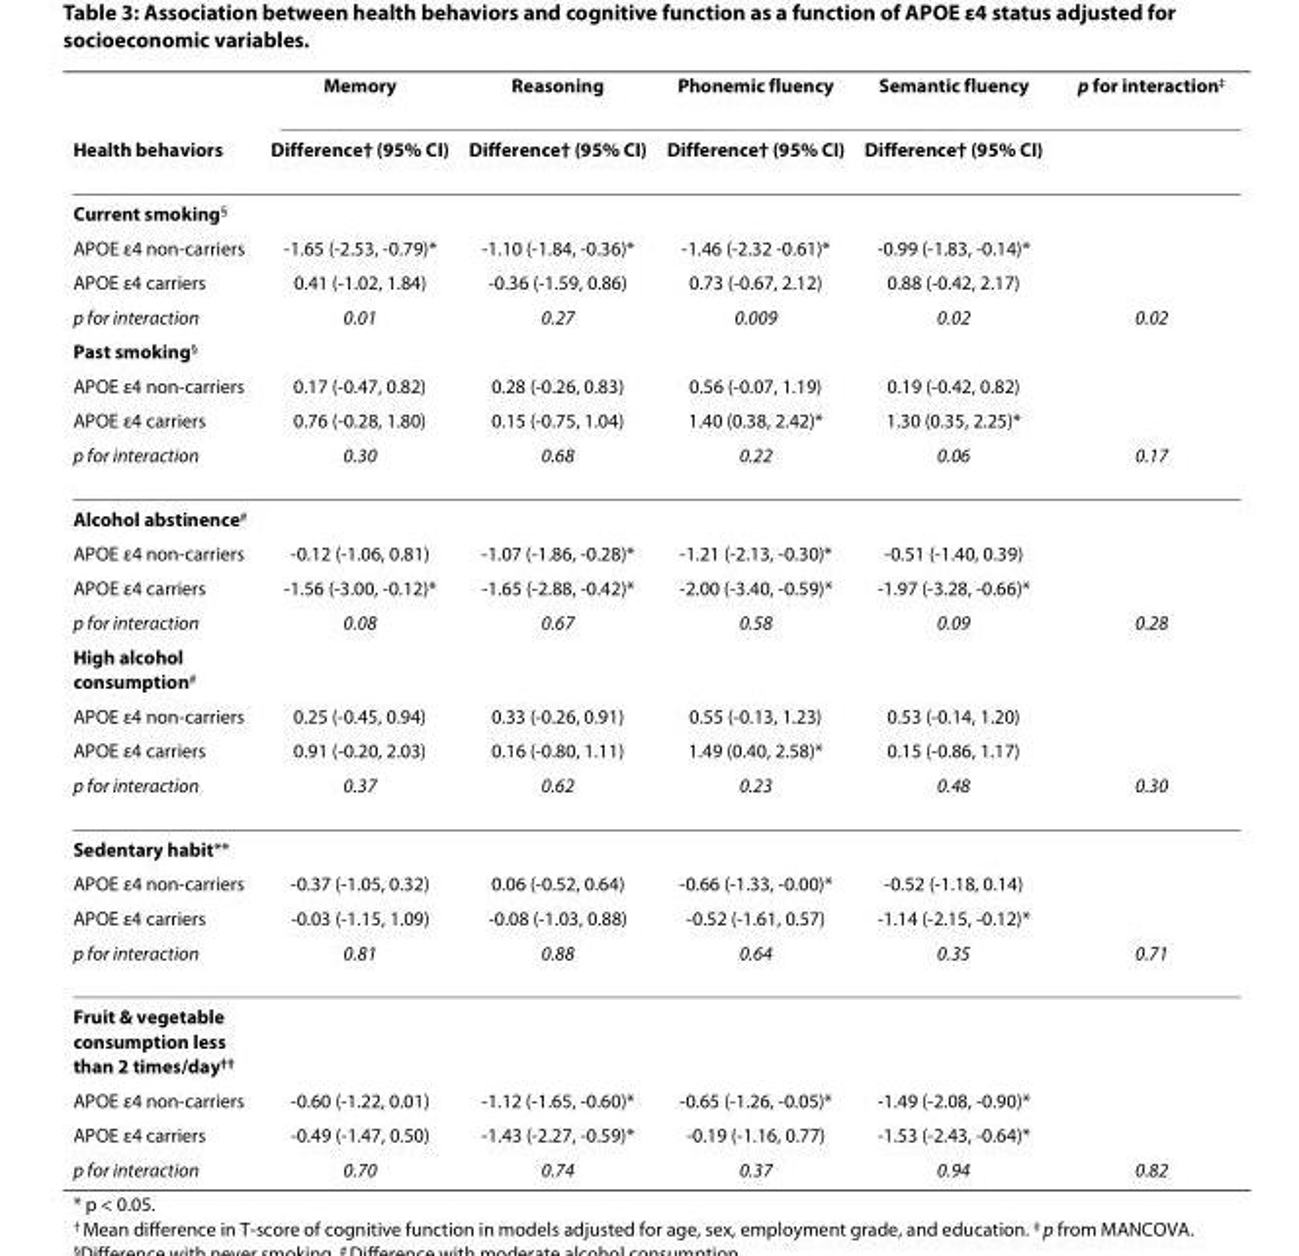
<table><thead><tr><td rowspan="2">Health behaviors</td><td rowspan="2">Memory Difference<sup>†</sup> (95% CI)</td><td rowspan="2">Reasoning Difference<sup>†</sup> (95% CI)</td><td rowspan="2">Phonemic fluency Difference<sup>†</sup> (95% CI)</td><td rowspan="2">Semantic fluency Difference<sup>†</sup> (95% CI)</td><td rowspan="2">p for interaction<sup>‡</sup></td></tr><tr></tr></thead><tbody><tr><td colspan="6">Current smoking<sup>§</sup></td></tr><tr><td>APOE ε4 non-carriers</td><td>-1.65 (-2.53, -0.79)*</td><td>-1.10 (-1.84, -0.36)*</td><td>-1.46 (-2.32 -0.61)*</td><td>-0.99 (-1.83, -0.14)*</td><td></td></tr><tr><td>APOE ε4 carriers</td><td>0.41 (-1.02, 1.84)</td><td>-0.36 (-1.59, 0.86)</td><td>0.73 (-0.67, 2.12)</td><td>0.88 (-0.42, 2.17)</td><td></td></tr><tr><td>p for interaction</td><td>0.01</td><td>0.27</td><td>0.009</td><td>0.02</td><td>0.02</td></tr><tr><td colspan="6">Past smoking<sup>§</sup></td></tr><tr><td>APOE ε4 non-carriers</td><td>0.17 (-0.47, 0.82)</td><td>0.28 (-0.26, 0.83)</td><td>0.56 (-0.07, 1.19)</td><td>0.19 (-0.42, 0.82)</td><td></td></tr><tr><td>APOE ε4 carriers</td><td>0.76 (-0.28, 1.80)</td><td>0.15 (-0.75, 1.04)</td><td>1.40 (0.38, 2.42)*</td><td>1.30 (0.35, 2.25)*</td><td></td></tr><tr><td>p for interaction</td><td>0.30</td><td>0.68</td><td>0.22</td><td>0.06</td><td>0.17</td></tr><tr><td colspan="6">Alcohol abstinence<sup>#</sup></td></tr><tr><td>APOE ε4 non-carriers</td><td>-0.12 (-1.06, 0.81)</td><td>-1.07 (-1.86, -0.28)*</td><td>-1.21 (-2.13, -0.30)*</td><td>-0.51 (-1.40, 0.39)</td><td></td></tr><tr><td>APOE ε4 carriers</td><td>-1.56 (-3.00, -0.12)*</td><td>-1.65 (-2.88, -0.42)*</td><td>-2.00 (-3.40, -0.59)*</td><td>-1.97 (-3.28, -0.66)*</td><td></td></tr><tr><td>p for interaction</td><td>0.08</td><td>0.67</td><td>0.58</td><td>0.09</td><td>0.28</td></tr><tr><td colspan="6">High alcohol consumption<sup>#</sup></td></tr><tr><td>APOE ε4 non-carriers</td><td>0.25 (-0.45, 0.94)</td><td>0.33 (-0.26, 0.91)</td><td>0.55 (-0.13, 1.23)</td><td>0.53 (-0.14, 1.20)</td><td></td></tr><tr><td>APOE ε4 carriers</td><td>0.91 (-0.20, 2.03)</td><td>0.16 (-0.80, 1.11)</td><td>1.49 (0.40, 2.58)*</td><td>0.15 (-0.86, 1.17)</td><td></td></tr><tr><td>p for interaction</td><td>0.37</td><td>0.62</td><td>0.23</td><td>0.48</td><td>0.30</td></tr><tr><td colspan="6">Sedentary habit**</td></tr><tr><td>APOE ε4 non-carriers</td><td>-0.37 (-1.05, 0.32)</td><td>0.06 (-0.52, 0.64)</td><td>-0.66 (-1.33, -0.00)*</td><td>-0.52 (-1.18, 0.14)</td><td></td></tr><tr><td>APOE ε4 carriers</td><td>-0.03 (-1.15, 1.09)</td><td>-0.08 (-1.03, 0.88)</td><td>-0.52 (-1.61, 0.57)</td><td>-1.14 (-2.15, -0.12)*</td><td></td></tr><tr><td>p for interaction</td><td>0.81</td><td>0.88</td><td>0.64</td><td>0.35</td><td>0.71</td></tr><tr><td colspan="6">Fruit &amp; vegetable consumption less than 2 times/day<sup>††</sup></td></tr><tr><td>APOE ε4 non-carriers</td><td>-0.60 (-1.22, 0.01)</td><td>-1.12 (-1.65, -0.60)*</td><td>-0.65 (-1.26, -0.05)*</td><td>-1.49 (-2.08, -0.90)*</td><td></td></tr><tr><td>APOE ε4 carriers</td><td>-0.49 (-1.47, 0.50)</td><td>-1.43 (-2.27, -0.59)*</td><td>-0.19 (-1.16, 0.77)</td><td>-1.53 (-2.43, -0.64)*</td><td></td></tr><tr><td>p for interaction</td><td>0.70</td><td>0.74</td><td>0.37</td><td>0.94</td><td>0.82</td></tr></tbody></table>